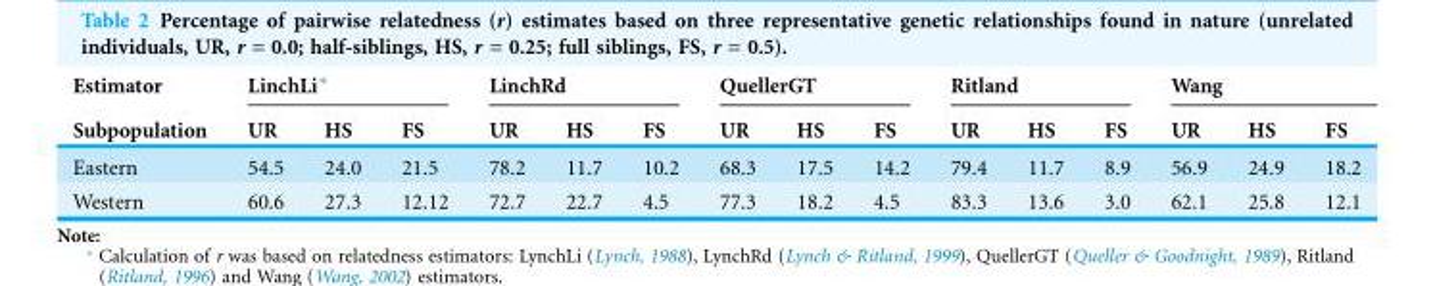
<table><thead><tr><td rowspan="2">Estimator Subpopulation</td><td colspan="3">LinchLi*</td><td colspan="3">LinchRd</td><td colspan="3">QuellerGT</td><td colspan="3">Ritland</td><td colspan="3">Wang</td></tr><tr><td>UR</td><td>HS</td><td>FS</td><td>UR</td><td>HS</td><td>FS</td><td>UR</td><td>HS</td><td>FS</td><td>UR</td><td>HS</td><td>FS</td><td>UR</td><td>HS</td><td>FS</td></tr></thead><tbody><tr><td>Eastern</td><td>54.5</td><td>24.0</td><td>21.5</td><td>78.2</td><td>11.7</td><td>10.2</td><td>68.3</td><td>17.5</td><td>14.2</td><td>79.4</td><td>11.7</td><td>8.9</td><td>56.9</td><td>24.9</td><td>18.2</td></tr><tr><td>Western</td><td>60.6</td><td>27.3</td><td>12.12</td><td>72.7</td><td>22.7</td><td>4.5</td><td>77.3</td><td>18.2</td><td>4.5</td><td>83.3</td><td>13.6</td><td>3.0</td><td>62.1</td><td>25.8</td><td>12.1</td></tr></tbody></table>